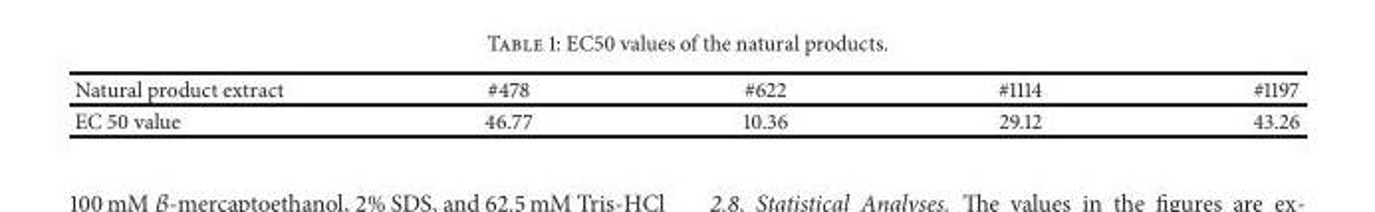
<table><thead><tr><td>Natural product extract</td><td>#478</td><td>#622</td><td>#1114</td><td>#1197</td></tr></thead><tbody><tr><td>EC 50 value</td><td>46.77</td><td>10.36</td><td>29.12</td><td>43.26</td></tr></tbody></table>